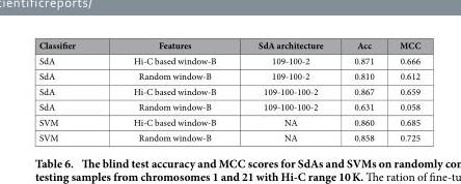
<table><thead><tr><td>Classifier</td><td>Features</td><td>SdA architecture</td><td>Acc</td><td>MCC</td></tr></thead><tbody><tr><td>SdA</td><td>Hi-C based window-B</td><td>109-100-2</td><td>0.871</td><td>0.666</td></tr><tr><td>SdA</td><td>Random window-B</td><td>109-100-2</td><td>0.810</td><td>0.612</td></tr><tr><td>SdA</td><td>Hi-C based window-B</td><td>109-100-100-2</td><td>0.867</td><td>0.659</td></tr><tr><td>SdA</td><td>Random window-B</td><td>109-100-100-2</td><td>0.631</td><td>0.058</td></tr><tr><td>SVM</td><td>Hi-C based window-B</td><td>NA</td><td>0.860</td><td>0.685</td></tr><tr><td>SVM</td><td>Random window-B</td><td>NA</td><td>0.858</td><td>0.725</td></tr></tbody></table>